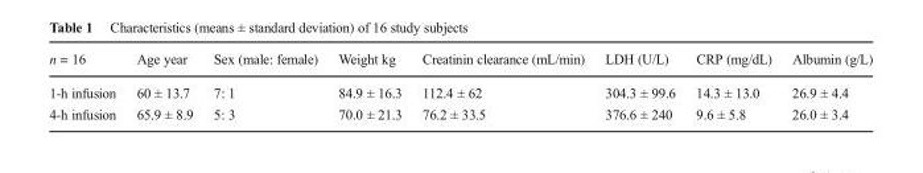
<table><thead><tr><td>n = 16</td><td>Age year</td><td>Sex (male: female)</td><td>Weight kg</td><td>Creatinin clearance (mL/min)</td><td>LDH (U/L)</td><td>CRP (mg/dL)</td><td>Albumin (g/L)</td></tr></thead><tbody><tr><td>1-h infusion</td><td>60 ± 13.7</td><td>7: 1</td><td>84.9 ± 16.3</td><td>112.4 ± 62</td><td>304.3 ± 99.6</td><td>14.3 ± 13.0</td><td>26.9 ± 4.4</td></tr><tr><td>4-h infusion</td><td>65.9 ± 8.9</td><td>5: 3</td><td>70.0 ± 21.3</td><td>76.2 ± 33.5</td><td>376.6 ± 240</td><td>9.6 ± 5.8</td><td>26.0 ± 3.4</td></tr></tbody></table>